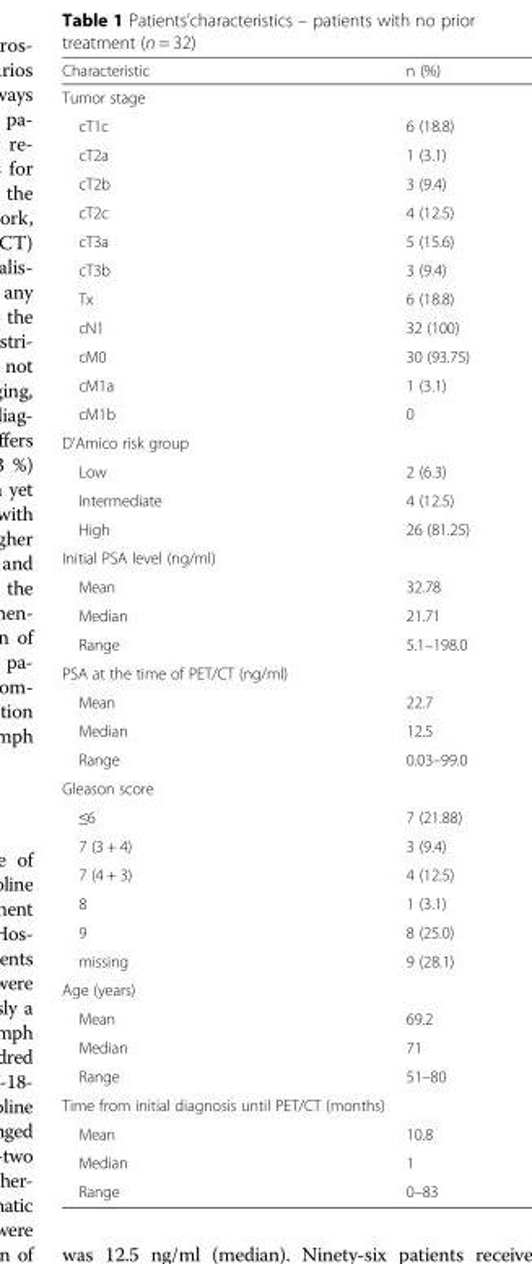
<table><thead><tr><td>Characteristic</td><td>n (%)</td></tr></thead><tbody><tr><td colspan="2">Tumor stage</td></tr><tr><td>cT1c</td><td>6 (18.8)</td></tr><tr><td>cT2a</td><td>1 (3.1)</td></tr><tr><td>cT2b</td><td>3 (9.4)</td></tr><tr><td>cT2c</td><td>4 (12.5)</td></tr><tr><td>cT3a</td><td>5 (15.6)</td></tr><tr><td>cT3b</td><td>3 (9.4)</td></tr><tr><td>Tx</td><td>6 (18.8)</td></tr><tr><td>cN1</td><td>32 (100)</td></tr><tr><td>cM0</td><td>30 (93.75)</td></tr><tr><td>cM1a</td><td>1 (3.1)</td></tr><tr><td>cM1b</td><td>0</td></tr><tr><td colspan="2">D’Amico risk group</td></tr><tr><td>Low</td><td>2 (6.3)</td></tr><tr><td>Intermediate</td><td>4 (12.5)</td></tr><tr><td>High</td><td>26 (81.25)</td></tr><tr><td colspan="2">Initial PSA level (ng/ml)</td></tr><tr><td>Mean</td><td>32.78</td></tr><tr><td>Median</td><td>21.71</td></tr><tr><td>Range</td><td>5.1–198.0</td></tr><tr><td colspan="2">PSA at the time of PET/CT (ng/ml)</td></tr><tr><td>Mean</td><td>22.7</td></tr><tr><td>Median</td><td>12.5</td></tr><tr><td>Range</td><td>0.03–99.0</td></tr><tr><td colspan="2">Gleason score</td></tr><tr><td>≤6</td><td>7 (21.88)</td></tr><tr><td>7 (3 + 4)</td><td>3 (9.4)</td></tr><tr><td>7 (4 + 3)</td><td>4 (12.5)</td></tr><tr><td>8</td><td>1 (3.1)</td></tr><tr><td>9</td><td>8 (25.0)</td></tr><tr><td>missing</td><td>9 (28.1)</td></tr><tr><td colspan="2">Age (years)</td></tr><tr><td>Mean</td><td>69.2</td></tr><tr><td>Median</td><td>71</td></tr><tr><td>Range</td><td>51–80</td></tr><tr><td colspan="2">Time from initial diagnosis until PET/CT (months)</td></tr><tr><td>Mean</td><td>10.8</td></tr><tr><td>Median</td><td>1</td></tr><tr><td>Range</td><td>0–83</td></tr></tbody></table>